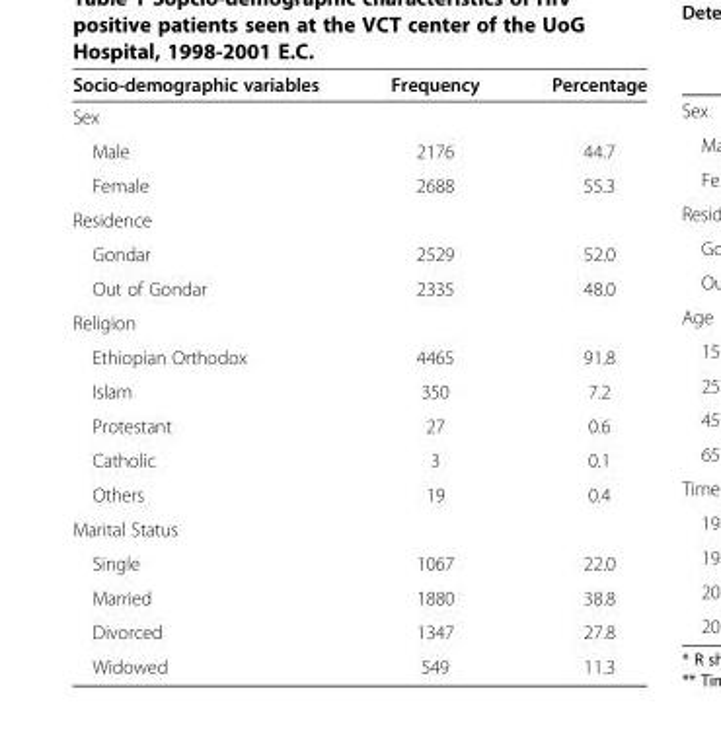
<table><thead><tr><td>Socio-demographic variables</td><td>Frequency</td><td>Percentage</td></tr></thead><tbody><tr><td colspan="3">Sex</td></tr><tr><td>Male</td><td>2176</td><td>44.7</td></tr><tr><td>Female</td><td>2688</td><td>55.3</td></tr><tr><td colspan="3">Residence</td></tr><tr><td>Gondar</td><td>2529</td><td>52.0</td></tr><tr><td>Out of Gondar</td><td>2335</td><td>48.0</td></tr><tr><td colspan="3">Religion</td></tr><tr><td>Ethiopian Orthodox</td><td>4465</td><td>91.8</td></tr><tr><td>Islam</td><td>350</td><td>7.2</td></tr><tr><td>Protestant</td><td>27</td><td>0.6</td></tr><tr><td>Catholic</td><td>3</td><td>0.1</td></tr><tr><td>Others</td><td>19</td><td>0.4</td></tr><tr><td colspan="3">Marital Status</td></tr><tr><td>Single</td><td>1067</td><td>22.0</td></tr><tr><td>Married</td><td>1880</td><td>38.8</td></tr><tr><td>Divorced</td><td>1347</td><td>27.8</td></tr><tr><td>Widowed</td><td>549</td><td>11.3</td></tr></tbody></table>